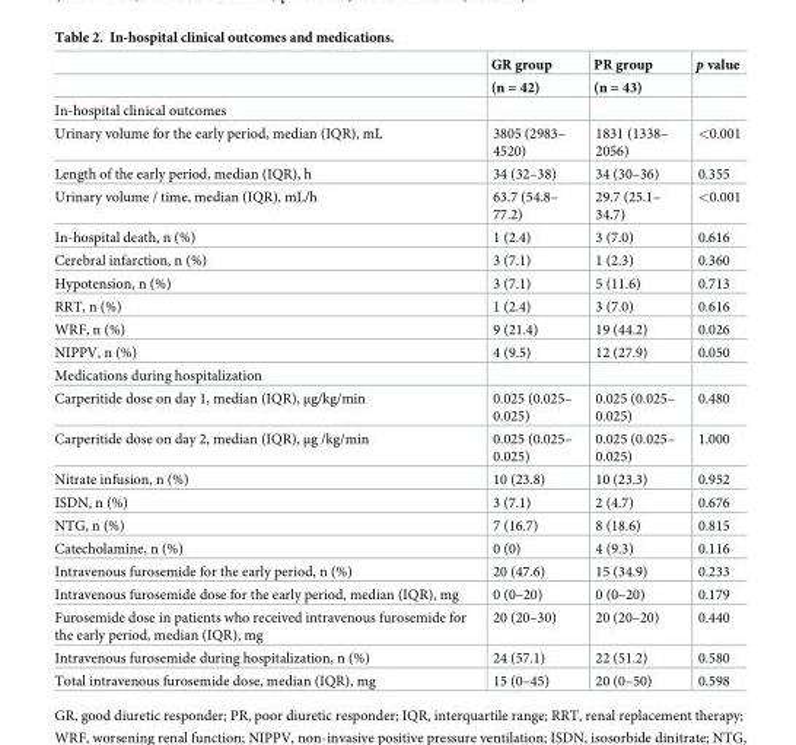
<table><thead><tr><td rowspan="2"></td><td rowspan="2">GR group (n = 42)</td><td rowspan="2">PR group (n = 43)</td><td rowspan="2">p value</td></tr><tr></tr></thead><tbody><tr><td colspan="4">In-hospital clinical outcomes</td></tr><tr><td>Urinary volume for the early period, median (IQR), mL</td><td>3805 (2983– 4520)</td><td>1831 (1338– 2056)</td><td>&lt;0.001</td></tr><tr><td>Length of the early period, median (IQR), h</td><td>34 (32–38)</td><td>34 (30–36)</td><td>0.355</td></tr><tr><td>Urinary volume / time, median (IQR), mL/h</td><td>63.7 (54.8– 77.2)</td><td>29.7 (25.1– 34.7)</td><td>&lt;0.001</td></tr><tr><td>In-hospital death, n (%)</td><td>1 (2.4)</td><td>3 (7.0)</td><td>0.616</td></tr><tr><td>Cerebral infarction, n (%)</td><td>3 (7.1)</td><td>1 (2.3)</td><td>0.360</td></tr><tr><td>Hypotension, n (%)</td><td>3 (7.1)</td><td>5 (11.6)</td><td>0.713</td></tr><tr><td>RRT, n (%)</td><td>1 (2.4)</td><td>3 (7.0)</td><td>0.616</td></tr><tr><td>WRF, n (%)</td><td>9 (21.4)</td><td>19 (44.2)</td><td>0.026</td></tr><tr><td>NIPPV, n (%)</td><td>4 (9.5)</td><td>12 (27.9)</td><td>0.050</td></tr><tr><td colspan="4">Medications during hospitalization</td></tr><tr><td>Carperitide dose on day 1, median (IQR), μg/kg/min</td><td>0.025 (0.025– 0.025)</td><td>0.025 (0.025– 0.025)</td><td>0.480</td></tr><tr><td>Carperitide dose on day 2, median (IQR), μg /kg/min</td><td>0.025 (0.025– 0.025)</td><td>0.025 (0.025– 0.025)</td><td>1.000</td></tr><tr><td>Nitrate infusion, n (%)</td><td>10 (23.8)</td><td>10 (23.3)</td><td>0.952</td></tr><tr><td>ISDN, n (%)</td><td>3 (7.1)</td><td>2 (4.7)</td><td>0.676</td></tr><tr><td>NTG, n (%)</td><td>7 (16.7)</td><td>8 (18.6)</td><td>0.815</td></tr><tr><td>Catecholamine, n (%)</td><td>0 (0)</td><td>4 (9.3)</td><td>0.116</td></tr><tr><td>Intravenous furosemide for the early period, n (%)</td><td>20 (47.6)</td><td>15 (34.9)</td><td>0.233</td></tr><tr><td>Intravenous furosemide dose for the early period, median (IQR), mg</td><td>0 (0–20)</td><td>0 (0–20)</td><td>0.179</td></tr><tr><td>Furosemide dose in patients who received intravenous furosemide for the early period, median (IQR), mg</td><td>20 (20–30)</td><td>20 (20–20)</td><td>0.440</td></tr><tr><td>Intravenous furosemide during hospitalization, n (%)</td><td>24 (57.1)</td><td>22 (51.2)</td><td>0.580</td></tr><tr><td>Total intravenous furosemide dose, median (IQR), mg</td><td>15 (0–45)</td><td>20 (0–50)</td><td>0.598</td></tr></tbody></table>